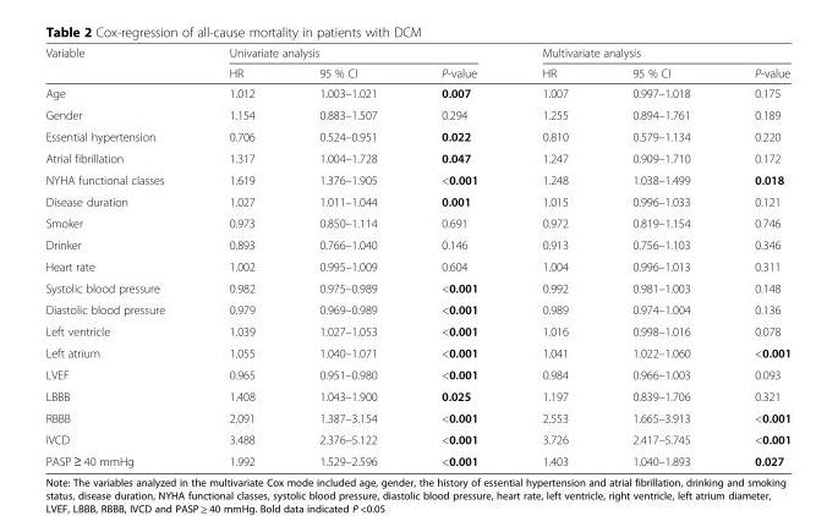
<table><thead><tr><td rowspan="2">Variable</td><td colspan="3">Univariate analysis</td><td colspan="3">Multivariate analysis</td></tr><tr><td>HR</td><td>95 % CI</td><td>P-value</td><td>HR</td><td>95 % CI</td><td>P-value</td></tr></thead><tbody><tr><td>Age</td><td>1.012</td><td>1.003–1.021</td><td>0.007</td><td>1.007</td><td>0.997–1.018</td><td>0.175</td></tr><tr><td>Gender</td><td>1.154</td><td>0.883–1.507</td><td>0.294</td><td>1.255</td><td>0.894–1.761</td><td>0.189</td></tr><tr><td>Essential hypertension</td><td>0.706</td><td>0.524–0.951</td><td>0.022</td><td>0.810</td><td>0.579–1.134</td><td>0.220</td></tr><tr><td>Atrial fibrillation</td><td>1.317</td><td>1.004–1.728</td><td>0.047</td><td>1.247</td><td>0.909–1.710</td><td>0.172</td></tr><tr><td>NYHA functional classes</td><td>1.619</td><td>1.376–1.905</td><td>&lt;0.001</td><td>1.248</td><td>1.038–1.499</td><td>0.018</td></tr><tr><td>Disease duration</td><td>1.027</td><td>1.011–1.044</td><td>0.001</td><td>1.015</td><td>0.996–1.033</td><td>0.121</td></tr><tr><td>Smoker</td><td>0.973</td><td>0.850–1.114</td><td>0.691</td><td>0.972</td><td>0.819–1.154</td><td>0.746</td></tr><tr><td>Drinker</td><td>0.893</td><td>0.766–1.040</td><td>0.146</td><td>0.913</td><td>0.756–1.103</td><td>0.346</td></tr><tr><td>Heart rate</td><td>1.002</td><td>0.995–1.009</td><td>0.604</td><td>1.004</td><td>0.996–1.013</td><td>0.311</td></tr><tr><td>Systolic blood pressure</td><td>0.982</td><td>0.975–0.989</td><td>&lt;0.001</td><td>0.992</td><td>0.981–1.003</td><td>0.148</td></tr><tr><td>Diastolic blood pressure</td><td>0.979</td><td>0.969–0.989</td><td>&lt;0.001</td><td>0.989</td><td>0.974–1.004</td><td>0.136</td></tr><tr><td>Left ventricle</td><td>1.039</td><td>1.027–1.053</td><td>&lt;0.001</td><td>1.016</td><td>0.998–1.016</td><td>0.078</td></tr><tr><td>Left atrium</td><td>1.055</td><td>1.040–1.071</td><td>&lt;0.001</td><td>1.041</td><td>1.022–1.060</td><td>&lt;0.001</td></tr><tr><td>LVEF</td><td>0.965</td><td>0.951–0.980</td><td>&lt;0.001</td><td>0.984</td><td>0.966–1.003</td><td>0.093</td></tr><tr><td>LBBB</td><td>1.408</td><td>1.043–1.900</td><td>0.025</td><td>1.197</td><td>0.839–1.706</td><td>0.321</td></tr><tr><td>RBBB</td><td>2.091</td><td>1.387–3.154</td><td>&lt;0.001</td><td>2.553</td><td>1.665–3.913</td><td>&lt;0.001</td></tr><tr><td>IVCD</td><td>3.488</td><td>2.376–5.122</td><td>&lt;0.001</td><td>3.726</td><td>2.417–5.745</td><td>&lt;0.001</td></tr><tr><td>PASP ≥ 40 mmHg</td><td>1.992</td><td>1.529–2.596</td><td>&lt;0.001</td><td>1.403</td><td>1.040–1.893</td><td>0.027</td></tr></tbody></table>